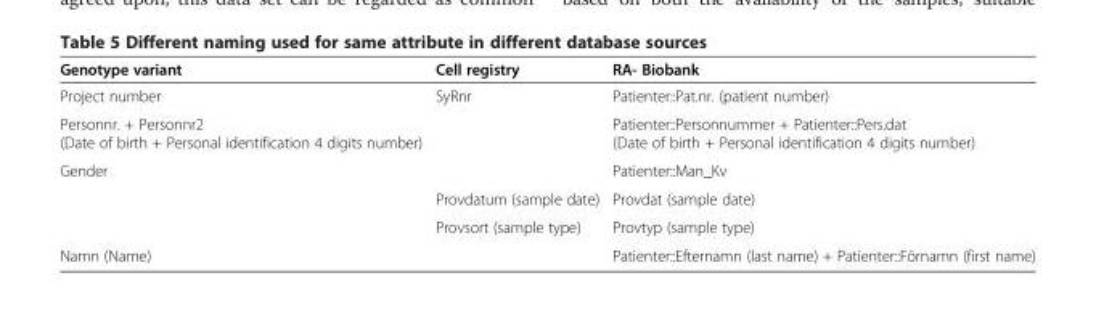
<table><thead><tr><td>Genotype variant</td><td>Cell registry</td><td>RA- Biobank</td></tr></thead><tbody><tr><td>Project number</td><td>SyRnr</td><td>Patienter::Pat.nr. (patient number)</td></tr><tr><td>Personnr. + Personnr2 (Date of birth + Personal identification 4 digits number)</td><td></td><td>Patienter::Personnummer + Patienter::Pers.dat (Date of birth + Personal identification 4 digits number)</td></tr><tr><td rowspan="3">Gender</td><td></td><td>Patienter::Man_Kv</td></tr><tr><td>Provdatum (sample date)</td><td>Provdat (sample date)</td></tr><tr><td>Provsort (sample type)</td><td>Provtyp (sample type)</td></tr><tr><td>Namn (Name)</td><td></td><td>Patienter::Efternamn (last name) + Patienter::Förnamn (first name)</td></tr></tbody></table>